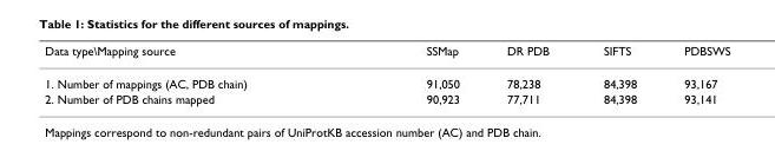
<table><thead><tr><td>Data type\Mapping source</td><td>SSMap</td><td>DR PDB</td><td>SIFTS</td><td>PDBSWS</td></tr></thead><tbody><tr><td>1. Number of mappings (AC, PDB chain)</td><td>91,050</td><td>78,238</td><td>84,398</td><td>93,167</td></tr><tr><td>2. Number of PDB chains mapped</td><td>90,923</td><td>77,711</td><td>84,398</td><td>93,141</td></tr></tbody></table>